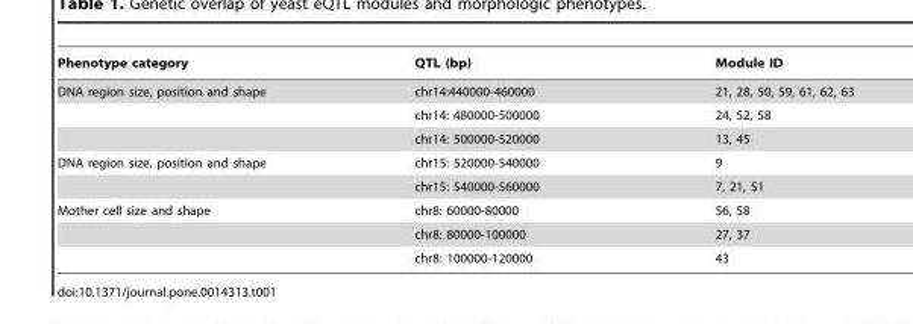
<table><thead><tr><td>Phenotype category</td><td>QTL (bp)</td><td>Module ID</td></tr></thead><tbody><tr><td rowspan="3">DNA region size, position and shape</td><td>chr14:440000-460000</td><td>21, 28, 50, 59, 61, 62, 63</td></tr><tr><td>chr14: 480000-500000</td><td>24, 52, 58</td></tr><tr><td>chr14: 500000-520000</td><td>13, 45</td></tr><tr><td rowspan="2">DNA region size, position and shape</td><td>chr15: 520000-540000</td><td>9</td></tr><tr><td>chr15: 540000-560000</td><td>7, 21, 51</td></tr><tr><td rowspan="3">Mother cell size and shape</td><td>chr8: 60000-80000</td><td>56, 58</td></tr><tr><td>chr8: 80000-100000</td><td>27, 37</td></tr><tr><td>chr8: 100000-120000</td><td>43</td></tr></tbody></table>